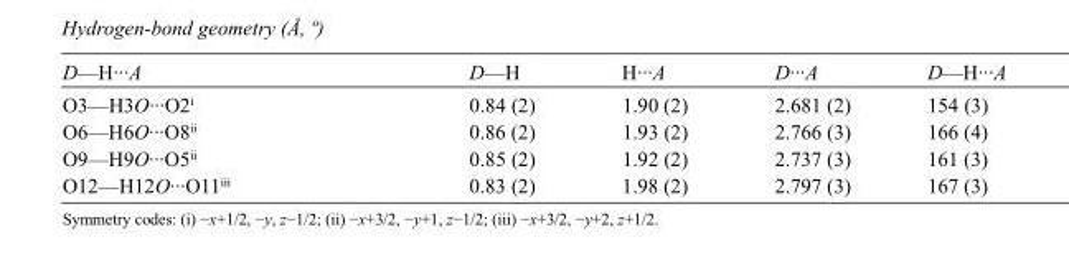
<table><tbody><tr><td>D—H···A</td><td>D—H</td><td>H···A</td><td>D···A</td><td>D—H···A</td></tr><tr><td>O3—H3O···O2<sup>i</sup></td><td>0.84 (2)</td><td>1.90 (2)</td><td>2.681 (2)</td><td>154 (3)</td></tr><tr><td>O6—H6O···O8<sup>ii</sup></td><td>0.86 (2)</td><td>1.93 (2)</td><td>2.766 (3)</td><td>166 (4)</td></tr><tr><td>O9—H9O···O5<sup>ii</sup></td><td>0.85 (2)</td><td>1.92 (2)</td><td>2.737 (3)</td><td>161 (3)</td></tr><tr><td>O12—H12O···O11<sup>iii</sup></td><td>0.83 (2)</td><td>1.98 (2)</td><td>2.797 (3)</td><td>167 (3)</td></tr></tbody></table>